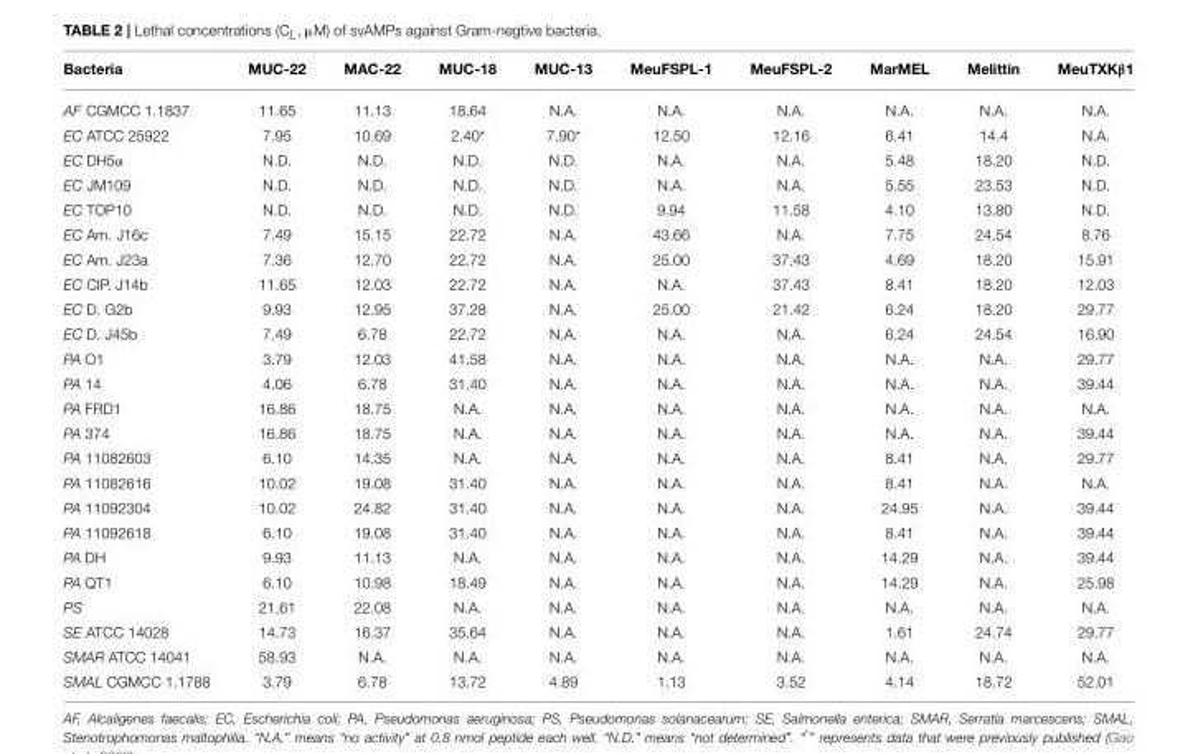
<table><thead><tr><td>Bacteria</td><td>MUC-22</td><td>MAC-22</td><td>MUC-18</td><td>MUC-13</td><td>MeuFSPL-1</td><td>MeuFSPL-2</td><td>MarMEL</td><td>Melittin</td><td>MeuTXKβ1</td></tr></thead><tbody><tr><td>AF CGMCC 1.1837</td><td>11.65</td><td>11.13</td><td>18.64</td><td>N.A.</td><td>N.A.</td><td>N.A.</td><td>N.A.</td><td>N.A.</td><td>N.A.</td></tr><tr><td>EC ATCC 25922</td><td>7.95</td><td>10.69</td><td>2.40*</td><td>7.90*</td><td>12.50</td><td>12.16</td><td>6.41</td><td>14.4</td><td>N.A.</td></tr><tr><td>EC DH5α</td><td>N.D.</td><td>N.D.</td><td>N.D.</td><td>N.D.</td><td>N.A.</td><td>N.A.</td><td>5.48</td><td>18.20</td><td>N.D.</td></tr><tr><td>EC JM109</td><td>N.D.</td><td>N.D.</td><td>N.D.</td><td>N.D.</td><td>N.A.</td><td>N.A.</td><td>5.55</td><td>23.53</td><td>N.D.</td></tr><tr><td>EC TOP10</td><td>N.D.</td><td>N.D.</td><td>N.D.</td><td>N.D.</td><td>9.94</td><td>11.58</td><td>4.10</td><td>13.80</td><td>N.D.</td></tr><tr><td>EC Am. J16c</td><td>7.49</td><td>15.15</td><td>22.72</td><td>N.A.</td><td>43.66</td><td>N.A.</td><td>7.75</td><td>24.54</td><td>8.76</td></tr><tr><td>EC Am. J23a</td><td>7.36</td><td>12.70</td><td>22.72</td><td>N.A.</td><td>25.00</td><td>37.43</td><td>4.69</td><td>18.20</td><td>15.91</td></tr><tr><td>EC CIP. J14b</td><td>11.65</td><td>12.03</td><td>22.72</td><td>N.A.</td><td>N.A.</td><td>37.43</td><td>8.41</td><td>18.20</td><td>12.03</td></tr><tr><td>EC D. G2b</td><td>9.93</td><td>12.95</td><td>37.28</td><td>N.A.</td><td>25.00</td><td>21.42</td><td>6.24</td><td>18.20</td><td>29.77</td></tr><tr><td>EC D. J45b</td><td>7.49</td><td>6.78</td><td>22.72</td><td>N.A.</td><td>N.A.</td><td>N.A.</td><td>6.24</td><td>24.54</td><td>16.90</td></tr><tr><td>PA O1</td><td>3.79</td><td>12.03</td><td>41.58</td><td>N.A.</td><td>N.A.</td><td>N.A.</td><td>N.A.</td><td>N.A.</td><td>29.77</td></tr><tr><td>PA 14</td><td>4.06</td><td>6.78</td><td>31.40</td><td>N.A.</td><td>N.A.</td><td>N.A.</td><td>N.A.</td><td>N.A.</td><td>39.44</td></tr><tr><td>PA FRD1</td><td>16.86</td><td>18.75</td><td>N.A.</td><td>N.A.</td><td>N.A.</td><td>N.A.</td><td>N.A.</td><td>N.A.</td><td>N.A.</td></tr><tr><td>PA 374</td><td>16.86</td><td>18.75</td><td>N.A.</td><td>N.A.</td><td>N.A.</td><td>N.A.</td><td>N.A.</td><td>N.A.</td><td>39.44</td></tr><tr><td>PA 11082603</td><td>6.10</td><td>14.35</td><td>N.A.</td><td>N.A.</td><td>N.A.</td><td>N.A.</td><td>8.41</td><td>N.A.</td><td>29.77</td></tr><tr><td>PA 11082616</td><td>10.02</td><td>19.08</td><td>31.40</td><td>N.A.</td><td>N.A.</td><td>N.A.</td><td>8.41</td><td>N.A.</td><td>N.A.</td></tr><tr><td>PA 11092304</td><td>10.02</td><td>24.82</td><td>31.40</td><td>N.A.</td><td>N.A.</td><td>N.A.</td><td>24.95</td><td>N.A.</td><td>39.44</td></tr><tr><td>PA 11092618</td><td>6.10</td><td>19.08</td><td>31.40</td><td>N.A.</td><td>N.A.</td><td>N.A.</td><td>8.41</td><td>N.A.</td><td>39.44</td></tr><tr><td>PA DH</td><td>9.93</td><td>11.13</td><td>N.A.</td><td>N.A.</td><td>N.A.</td><td>N.A.</td><td>14.29</td><td>N.A.</td><td>39.44</td></tr><tr><td>PA QT1</td><td>6.10</td><td>10.98</td><td>18.49</td><td>N.A.</td><td>N.A.</td><td>N.A.</td><td>14.29</td><td>N.A.</td><td>25.98</td></tr><tr><td>PS</td><td>21.61</td><td>22.08</td><td>N.A.</td><td>N.A.</td><td>N.A.</td><td>N.A.</td><td>N.A.</td><td>N.A.</td><td>N.A.</td></tr><tr><td>SE ATCC 14028</td><td>14.73</td><td>16.37</td><td>35.64</td><td>N.A.</td><td>N.A.</td><td>N.A.</td><td>1.61</td><td>24.74</td><td>29.77</td></tr><tr><td>SMAR ATCC 14041</td><td>58.93</td><td>N.A.</td><td>N.A.</td><td>N.A.</td><td>N.A.</td><td>N.A.</td><td>N.A.</td><td>N.A.</td><td>N.A.</td></tr><tr><td>SMAL CGMCC 1.1788</td><td>3.79</td><td>6.78</td><td>13.72</td><td>4.89</td><td>1.13</td><td>3.52</td><td>4.14</td><td>18.72</td><td>52.01</td></tr></tbody></table>